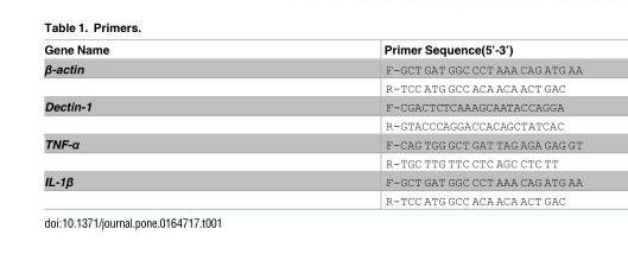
<table><thead><tr><td>Gene Name</td><td>Primer Sequence(5’-3’)</td></tr></thead><tbody><tr><td rowspan="2">β-actin</td><td>F-GCT GAT GGC CCT AAA CAG ATG AA</td></tr><tr><td>R-TCC ATG GCC ACA ACA ACT GAC</td></tr><tr><td rowspan="2">Dectin-1</td><td>F-CGACTCTCAAAGCAATACCAGGA</td></tr><tr><td>R-GTACCCAGGACCACAGCTATCAC</td></tr><tr><td rowspan="2">TNF-α</td><td>F-CAG TGG GCT GAT TAG AGA GAG GT</td></tr><tr><td>R-TGC TTG TTC CTC AGC CTC TT</td></tr><tr><td rowspan="2">IL-1β</td><td>F-GCT GAT GGC CCT AAA CAG ATG AA</td></tr><tr><td>R-TCC ATG GCC ACA ACA ACT GAC</td></tr></tbody></table>